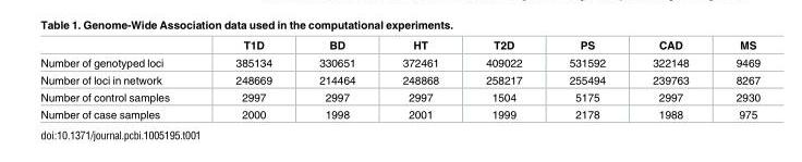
<table><thead><tr><td></td><td>T1D</td><td>BD</td><td>HT</td><td>T2D</td><td>PS</td><td>CAD</td><td>MS</td></tr></thead><tbody><tr><td>Number of genotyped loci</td><td>385134</td><td>330651</td><td>372461</td><td>409022</td><td>531592</td><td>322148</td><td>9469</td></tr><tr><td>Number of loci in network</td><td>248669</td><td>214464</td><td>248868</td><td>258217</td><td>255494</td><td>239763</td><td>8267</td></tr><tr><td>Number of control samples</td><td>2997</td><td>2997</td><td>2997</td><td>1504</td><td>5175</td><td>2997</td><td>2930</td></tr><tr><td>Number of case samples</td><td>2000</td><td>1998</td><td>2001</td><td>1999</td><td>2178</td><td>1988</td><td>975</td></tr></tbody></table>